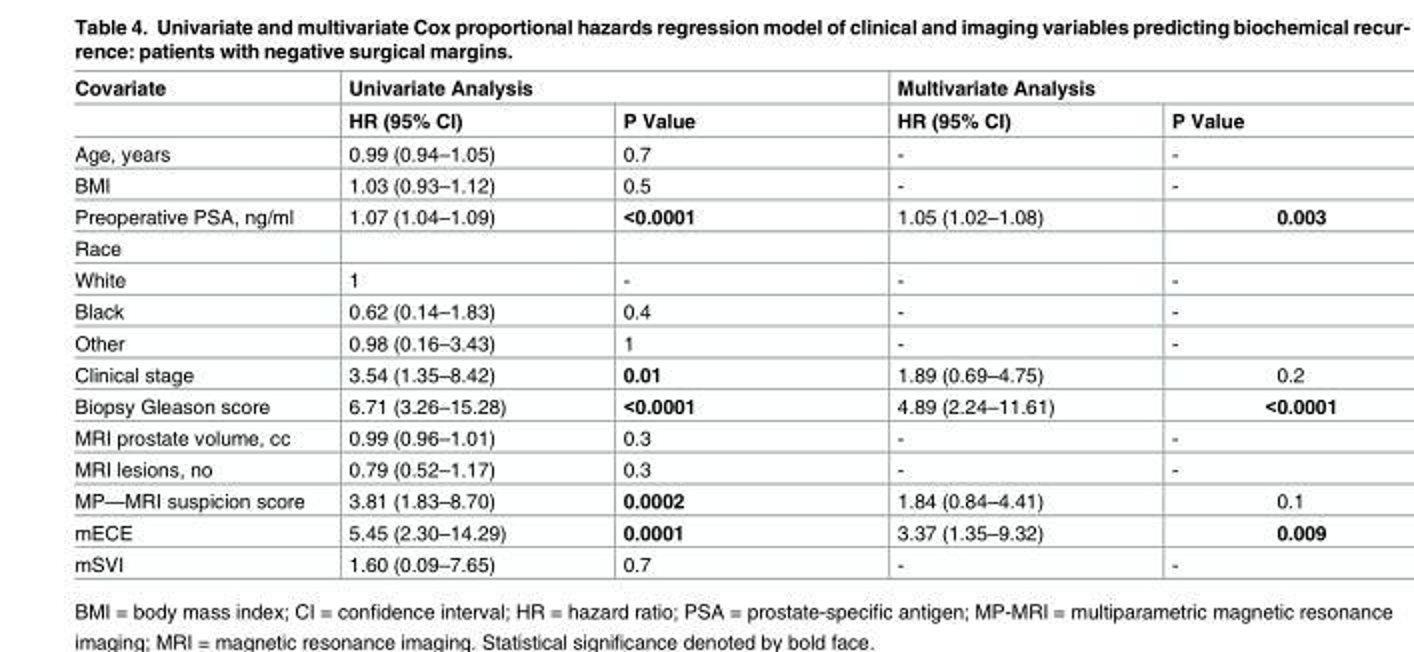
<table><thead><tr><td rowspan="2">Covariate</td><td colspan="2">Univariate Analysis</td><td colspan="2">Multivariate Analysis</td></tr><tr><td>HR (95% CI)</td><td>P Value</td><td>HR (95% CI)</td><td>P Value</td></tr></thead><tbody><tr><td>Age, years</td><td>0.99 (0.94–1.05)</td><td>0.7</td><td>-</td><td>-</td></tr><tr><td>BMI</td><td>1.03 (0.93–1.12)</td><td>0.5</td><td>-</td><td>-</td></tr><tr><td>Preoperative PSA, ng/ml</td><td>1.07 (1.04–1.09)</td><td>&lt;0.0001</td><td>1.05 (1.02–1.08)</td><td>0.003</td></tr><tr><td colspan="5">Race</td></tr><tr><td>White</td><td>1</td><td>-</td><td>-</td><td>-</td></tr><tr><td>Black</td><td>0.62 (0.14–1.83)</td><td>0.4</td><td>-</td><td>-</td></tr><tr><td>Other</td><td>0.98 (0.16–3.43)</td><td>1</td><td>-</td><td>-</td></tr><tr><td>Clinical stage</td><td>3.54 (1.35–8.42)</td><td>0.01</td><td>1.89 (0.69–4.75)</td><td>0.2</td></tr><tr><td>Biopsy Gleason score</td><td>6.71 (3.26–15.28)</td><td>&lt;0.0001</td><td>4.89 (2.24–11.61)</td><td>&lt;0.0001</td></tr><tr><td>MRI prostate volume, cc</td><td>0.99 (0.96–1.01)</td><td>0.3</td><td>-</td><td>-</td></tr><tr><td>MRI lesions, no</td><td>0.79 (0.52–1.17)</td><td>0.3</td><td>-</td><td>-</td></tr><tr><td>MP—MRI suspicion score</td><td>3.81 (1.83–8.70)</td><td>0.0002</td><td>1.84 (0.84–4.41)</td><td>0.1</td></tr><tr><td>mECE</td><td>5.45 (2.30–14.29)</td><td>0.0001</td><td>3.37 (1.35–9.32)</td><td>0.009</td></tr><tr><td>mSVI</td><td>1.60 (0.09–7.65)</td><td>0.7</td><td>-</td><td>-</td></tr></tbody></table>